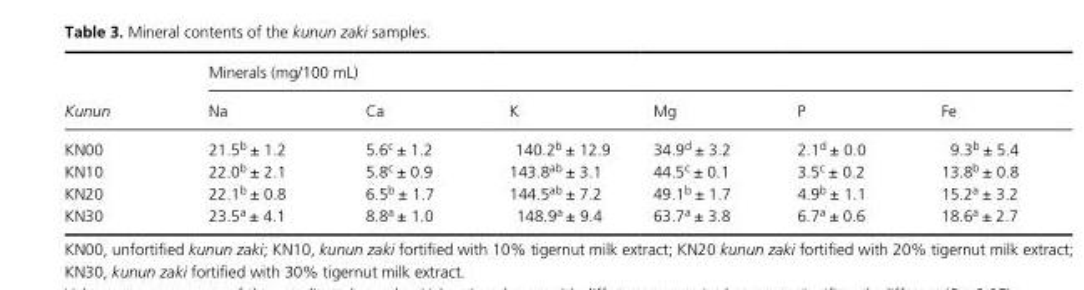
<table><thead><tr><td rowspan="2">Kunun</td><td colspan="6">Minerals (mg/100 mL)</td></tr><tr><td>Na</td><td>Ca</td><td>K</td><td>Mg</td><td>P</td><td>Fe</td></tr></thead><tbody><tr><td>KN00</td><td>21.5<sup>b</sup> ± 1.2</td><td>5.6<sup>c</sup> ± 1.2</td><td>140.2<sup>b</sup> ± 12.9</td><td>34.9<sup>d</sup> ± 3.2</td><td>2.1<sup>d</sup> ± 0.0</td><td>9.3<sup>b</sup> ± 5.4</td></tr><tr><td>KN10</td><td>22.0<sup>b</sup> ± 2.1</td><td>5.8<sup>c</sup> ± 0.9</td><td>143.8<sup>ab</sup> ± 3.1</td><td>44.5<sup>c</sup> ± 0.1</td><td>3.5<sup>c</sup> ± 0.2</td><td>13.8<sup>b</sup> ± 0.8</td></tr><tr><td>KN20</td><td>22.1<sup>b</sup> ± 0.8</td><td>6.5<sup>b</sup> ± 1.7</td><td>144.5<sup>ab</sup> ± 7.2</td><td>49.1<sup>b</sup> ± 1.7</td><td>4.9<sup>b</sup> ± 1.1</td><td>15.2<sup>a</sup> ± 3.2</td></tr><tr><td>KN30</td><td>23.5<sup>a</sup> ± 4.1</td><td>8.8<sup>a</sup> ± 1.0</td><td>148.9<sup>a</sup> ± 9.4</td><td>63.7<sup>a</sup> ± 3.8</td><td>6.7<sup>a</sup> ± 0.6</td><td>18.6<sup>a</sup> ± 2.7</td></tr></tbody></table>